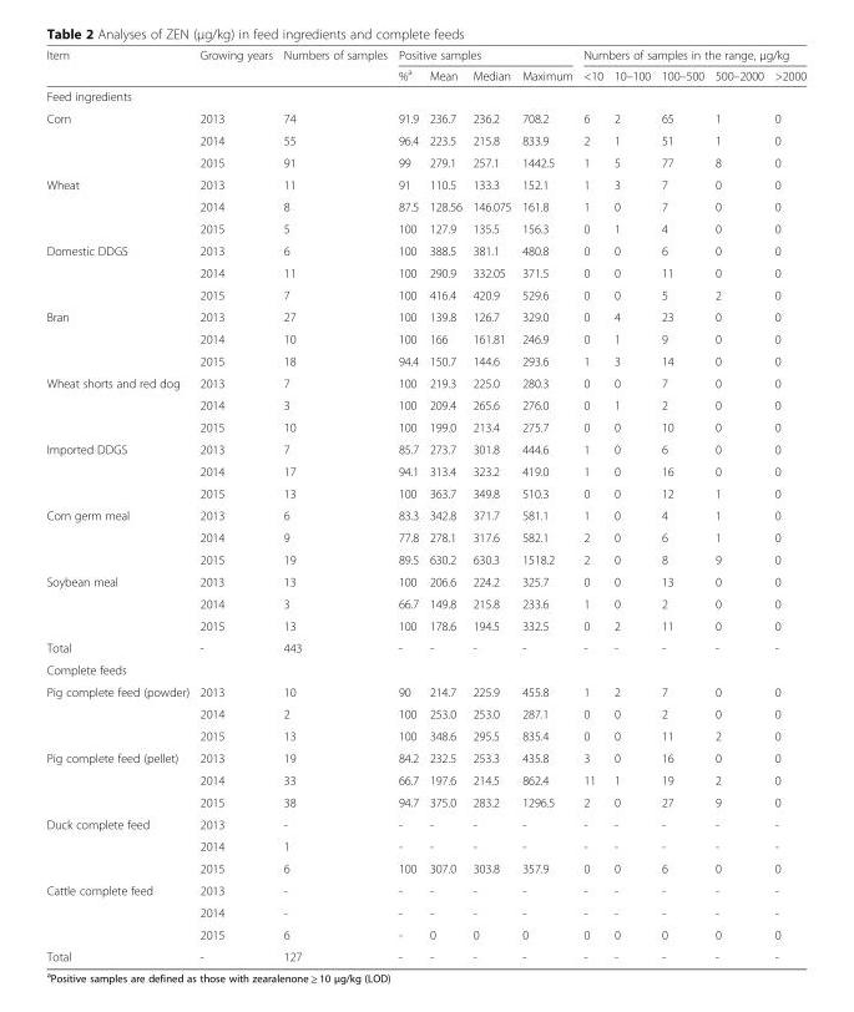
<table><thead><tr><td rowspan="2">Item</td><td rowspan="2">Growing years</td><td rowspan="2">Numbers of samples</td><td colspan="4">Positive samples</td><td colspan="5">Numbers of samples in the range, μg/kg</td></tr><tr><td>%<sup>a</sup></td><td>Mean</td><td>Median</td><td>Maximum</td><td>&lt;10</td><td>10–100</td><td>100–500</td><td>500–2000</td><td>&gt;2000</td></tr></thead><tbody><tr><td colspan="12">Feed ingredients</td></tr><tr><td rowspan="3">Corn</td><td>2013</td><td>74</td><td>91.9</td><td>236.7</td><td>236.2</td><td>708.2</td><td>6</td><td>2</td><td>65</td><td>1</td><td>0</td></tr><tr><td>2014</td><td>55</td><td>96.4</td><td>223.5</td><td>215.8</td><td>833.9</td><td>2</td><td>1</td><td>51</td><td>1</td><td>0</td></tr><tr><td>2015</td><td>91</td><td>99</td><td>279.1</td><td>257.1</td><td>1442.5</td><td>1</td><td>5</td><td>77</td><td>8</td><td>0</td></tr><tr><td rowspan="3">Wheat</td><td>2013</td><td>11</td><td>91</td><td>110.5</td><td>133.3</td><td>152.1</td><td>1</td><td>3</td><td>7</td><td>0</td><td>0</td></tr><tr><td>2014</td><td>8</td><td>87.5</td><td>128.56</td><td>146.075</td><td>161.8</td><td>1</td><td>0</td><td>7</td><td>0</td><td>0</td></tr><tr><td>2015</td><td>5</td><td>100</td><td>127.9</td><td>135.5</td><td>156.3</td><td>0</td><td>1</td><td>4</td><td>0</td><td>0</td></tr><tr><td rowspan="3">Domestic DDGS</td><td>2013</td><td>6</td><td>100</td><td>388.5</td><td>381.1</td><td>480.8</td><td>0</td><td>0</td><td>6</td><td>0</td><td>0</td></tr><tr><td>2014</td><td>11</td><td>100</td><td>290.9</td><td>332.05</td><td>371.5</td><td>0</td><td>0</td><td>11</td><td>0</td><td>0</td></tr><tr><td>2015</td><td>7</td><td>100</td><td>416.4</td><td>420.9</td><td>529.6</td><td>0</td><td>0</td><td>5</td><td>2</td><td>0</td></tr><tr><td rowspan="3">Bran</td><td>2013</td><td>27</td><td>100</td><td>139.8</td><td>126.7</td><td>329.0</td><td>0</td><td>4</td><td>23</td><td>0</td><td>0</td></tr><tr><td>2014</td><td>10</td><td>100</td><td>166</td><td>161.81</td><td>246.9</td><td>0</td><td>1</td><td>9</td><td>0</td><td>0</td></tr><tr><td>2015</td><td>18</td><td>94.4</td><td>150.7</td><td>144.6</td><td>293.6</td><td>1</td><td>3</td><td>14</td><td>0</td><td>0</td></tr><tr><td rowspan="3">Wheat shorts and red dog</td><td>2013</td><td>7</td><td>100</td><td>219.3</td><td>225.0</td><td>280.3</td><td>0</td><td>0</td><td>7</td><td>0</td><td>0</td></tr><tr><td>2014</td><td>3</td><td>100</td><td>209.4</td><td>265.6</td><td>276.0</td><td>0</td><td>1</td><td>2</td><td>0</td><td>0</td></tr><tr><td>2015</td><td>10</td><td>100</td><td>199.0</td><td>213.4</td><td>275.7</td><td>0</td><td>0</td><td>10</td><td>0</td><td>0</td></tr><tr><td rowspan="3">Imported DDGS</td><td>2013</td><td>7</td><td>85.7</td><td>273.7</td><td>301.8</td><td>444.6</td><td>1</td><td>0</td><td>6</td><td>0</td><td>0</td></tr><tr><td>2014</td><td>17</td><td>94.1</td><td>313.4</td><td>323.2</td><td>419.0</td><td>1</td><td>0</td><td>16</td><td>0</td><td>0</td></tr><tr><td>2015</td><td>13</td><td>100</td><td>363.7</td><td>349.8</td><td>510.3</td><td>0</td><td>0</td><td>12</td><td>1</td><td>0</td></tr><tr><td rowspan="3">Corn germ meal</td><td>2013</td><td>6</td><td>83.3</td><td>342.8</td><td>371.7</td><td>581.1</td><td>1</td><td>0</td><td>4</td><td>1</td><td>0</td></tr><tr><td>2014</td><td>9</td><td>77.8</td><td>278.1</td><td>317.6</td><td>582.1</td><td>2</td><td>0</td><td>6</td><td>1</td><td>0</td></tr><tr><td>2015</td><td>19</td><td>89.5</td><td>630.2</td><td>630.3</td><td>1518.2</td><td>2</td><td>0</td><td>8</td><td>9</td><td>0</td></tr><tr><td rowspan="3">Soybean meal</td><td>2013</td><td>13</td><td>100</td><td>206.6</td><td>224.2</td><td>325.7</td><td>0</td><td>0</td><td>13</td><td>0</td><td>0</td></tr><tr><td>2014</td><td>3</td><td>66.7</td><td>149.8</td><td>215.8</td><td>233.6</td><td>1</td><td>0</td><td>2</td><td>0</td><td>0</td></tr><tr><td>2015</td><td>13</td><td>100</td><td>178.6</td><td>194.5</td><td>332.5</td><td>0</td><td>2</td><td>11</td><td>0</td><td>0</td></tr><tr><td>Total</td><td>-</td><td>443</td><td>-</td><td>-</td><td>-</td><td>-</td><td>-</td><td>-</td><td>-</td><td>-</td><td>-</td></tr><tr><td colspan="12">Complete feeds</td></tr><tr><td rowspan="3">Pig complete feed (powder)</td><td>2013</td><td>10</td><td>90</td><td>214.7</td><td>225.9</td><td>455.8</td><td>1</td><td>2</td><td>7</td><td>0</td><td>0</td></tr><tr><td>2014</td><td>2</td><td>100</td><td>253.0</td><td>253.0</td><td>287.1</td><td>0</td><td>0</td><td>2</td><td>0</td><td>0</td></tr><tr><td>2015</td><td>13</td><td>100</td><td>348.6</td><td>295.5</td><td>835.4</td><td>0</td><td>0</td><td>11</td><td>2</td><td>0</td></tr><tr><td rowspan="3">Pig complete feed (pellet)</td><td>2013</td><td>19</td><td>84.2</td><td>232.5</td><td>253.3</td><td>435.8</td><td>3</td><td>0</td><td>16</td><td>0</td><td>0</td></tr><tr><td>2014</td><td>33</td><td>66.7</td><td>197.6</td><td>214.5</td><td>862.4</td><td>11</td><td>1</td><td>19</td><td>2</td><td>0</td></tr><tr><td>2015</td><td>38</td><td>94.7</td><td>375.0</td><td>283.2</td><td>1296.5</td><td>2</td><td>0</td><td>27</td><td>9</td><td>0</td></tr><tr><td rowspan="3">Duck complete feed</td><td>2013</td><td>-</td><td>-</td><td>-</td><td>-</td><td>-</td><td>-</td><td>-</td><td>-</td><td>-</td><td>-</td></tr><tr><td>2014</td><td>1</td><td>-</td><td>-</td><td>-</td><td>-</td><td>-</td><td>-</td><td>-</td><td>-</td><td>-</td></tr><tr><td>2015</td><td>6</td><td>100</td><td>307.0</td><td>303.8</td><td>357.9</td><td>0</td><td>0</td><td>6</td><td>0</td><td>0</td></tr><tr><td rowspan="3">Cattle complete feed</td><td>2013</td><td>-</td><td>-</td><td>-</td><td>-</td><td>-</td><td>-</td><td>-</td><td>-</td><td>-</td><td>-</td></tr><tr><td>2014</td><td>-</td><td>-</td><td>-</td><td>-</td><td>-</td><td>-</td><td>-</td><td>-</td><td>-</td><td>-</td></tr><tr><td>2015</td><td>6</td><td>-</td><td>0</td><td>0</td><td>0</td><td>0</td><td>0</td><td>0</td><td>0</td><td>0</td></tr><tr><td>Total</td><td>-</td><td>127</td><td>-</td><td>-</td><td>-</td><td>-</td><td>-</td><td>-</td><td>-</td><td>-</td><td>-</td></tr></tbody></table>